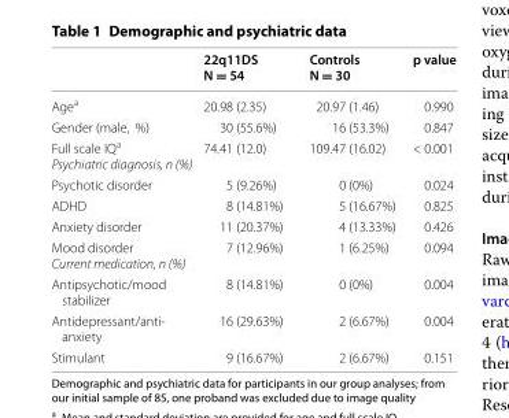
<table><thead><tr><td></td><td>22q11DS N = 54</td><td>Controls N = 30</td><td>p value</td></tr></thead><tbody><tr><td>Age<sup>a</sup></td><td>20.98 (2.35)</td><td>20.97 (1.46)</td><td>0.990</td></tr><tr><td>Gender (male, %)</td><td>30 (55.6%)</td><td>16 (53.3%)</td><td>0.847</td></tr><tr><td>Full scale IQ<sup>a</sup> Psychiatric diagnosis, n (%)</td><td>74.41 (12.0)</td><td>109.47 (16.02)</td><td>&lt; 0.001</td></tr><tr><td>Psychotic disorder</td><td>5 (9.26%)</td><td>0 (0%)</td><td>0.024</td></tr><tr><td>ADHD</td><td>8 (14.81%)</td><td>5 (16.67%)</td><td>0.825</td></tr><tr><td>Anxiety disorder</td><td>11 (20.37%)</td><td>4 (13.33%)</td><td>0.426</td></tr><tr><td>Mood disorder Current medication, n (%)</td><td>7 (12.96%)</td><td>1 (6.25%)</td><td>0.094</td></tr><tr><td>Antipsychotic/mood stabilizer</td><td>8 (14.81%)</td><td>0 (0%)</td><td>0.004</td></tr><tr><td>Antidepressant/anti- anxiety</td><td>16 (29.63%)</td><td>2 (6.67%)</td><td>0.004</td></tr><tr><td>Stimulant</td><td>9 (16.67%)</td><td>2 (6.67%)</td><td>0.151</td></tr></tbody></table>